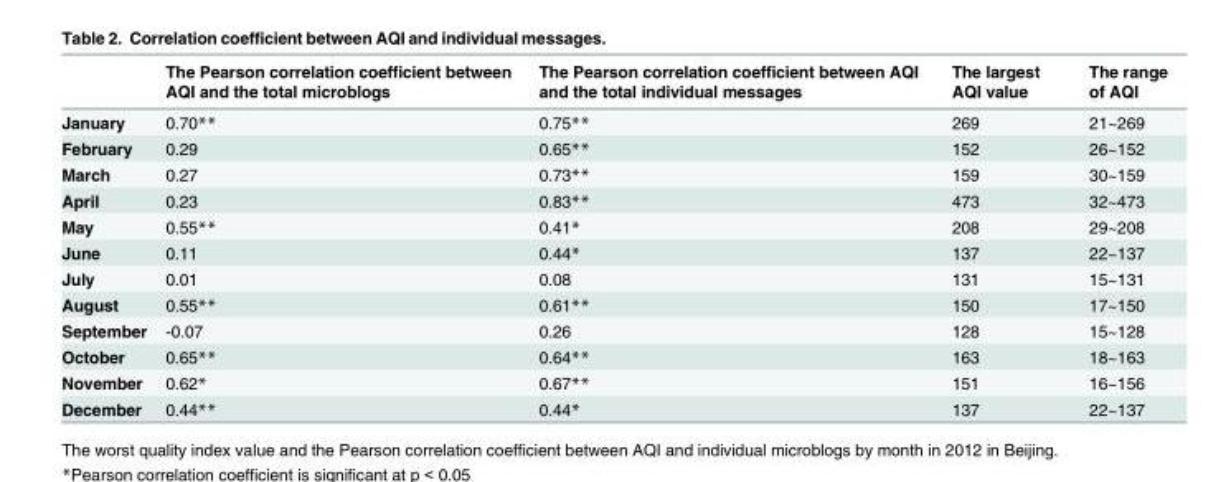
<table><thead><tr><td></td><td>The Pearson correlation coefficient between AQI and the total microblogs</td><td>The Pearson correlation coefficient between AQI and the total individual messages</td><td>The largest AQI value</td><td>The range of AQI</td></tr></thead><tbody><tr><td>January</td><td>0.70**</td><td>0.75**</td><td>269</td><td>21~269</td></tr><tr><td>February</td><td>0.29</td><td>0.65**</td><td>152</td><td>26~152</td></tr><tr><td>March</td><td>0.27</td><td>0.73**</td><td>159</td><td>30~159</td></tr><tr><td>April</td><td>0.23</td><td>0.83**</td><td>473</td><td>32~473</td></tr><tr><td>May</td><td>0.55**</td><td>0.41*</td><td>208</td><td>29~208</td></tr><tr><td>June</td><td>0.11</td><td>0.44*</td><td>137</td><td>22~137</td></tr><tr><td>July</td><td>0.01</td><td>0.08</td><td>131</td><td>15~131</td></tr><tr><td>August</td><td>0.55**</td><td>0.61**</td><td>150</td><td>17~150</td></tr><tr><td>September</td><td>-0.07</td><td>0.26</td><td>128</td><td>15~128</td></tr><tr><td>October</td><td>0.65**</td><td>0.64**</td><td>163</td><td>18~163</td></tr><tr><td>November</td><td>0.62*</td><td>0.67**</td><td>151</td><td>16~156</td></tr><tr><td>December</td><td>0.44**</td><td>0.44*</td><td>137</td><td>22~137</td></tr></tbody></table>